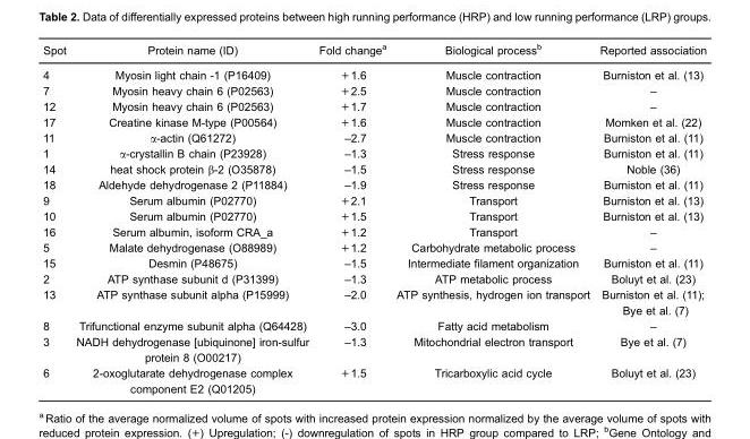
<table><thead><tr><td>Spot</td><td>Protein name (ID)</td><td>Fold change<sup>a</sup></td><td>Biological process<sup>b</sup></td><td>Reported association</td></tr></thead><tbody><tr><td>4</td><td>Myosin light chain -1 (P16409)</td><td>+1.6</td><td>Muscle contraction</td><td>Burniston et al. (13)</td></tr><tr><td>7</td><td>Myosin heavy chain 6 (P02563)</td><td>+2.5</td><td>Muscle contraction</td><td>–</td></tr><tr><td>12</td><td>Myosin heavy chain 6 (P02563)</td><td>+1.7</td><td>Muscle contraction</td><td>–</td></tr><tr><td>17</td><td>Creatine kinase M-type (P00564)</td><td>+1.6</td><td>Muscle contraction</td><td>Momken et al. (22)</td></tr><tr><td>11</td><td>α-actin (Q61272)</td><td>–2.7</td><td>Muscle contraction</td><td>Burniston et al. (11)</td></tr><tr><td>1</td><td>α-crystallin B chain (P23928)</td><td>–1.3</td><td>Stress response</td><td>Burniston et al. (11)</td></tr><tr><td>14</td><td>heat shock protein β-2 (O35878)</td><td>–1.5</td><td>Stress response</td><td>Noble (36)</td></tr><tr><td>18</td><td>Aldehyde dehydrogenase 2 (P11884)</td><td>–1.9</td><td>Stress response</td><td>Burniston et al. (11)</td></tr><tr><td>9</td><td>Serum albumin (P02770)</td><td>+2.1</td><td>Transport</td><td>Burniston et al. (13)</td></tr><tr><td>10</td><td>Serum albumin (P02770)</td><td>+1.5</td><td>Transport</td><td>Burniston et al. (13)</td></tr><tr><td>16</td><td>Serum albumin, isoform CRA_a</td><td>+1.2</td><td>Transport</td><td>–</td></tr><tr><td>5</td><td>Malate dehydrogenase (O88989)</td><td>+1.2</td><td>Carbohydrate metabolic process</td><td>–</td></tr><tr><td>15</td><td>Desmin (P48675)</td><td>–1.5</td><td>Intermediate filament organization</td><td>Burniston et al. (11)</td></tr><tr><td>2</td><td>ATP synthase subunit d (P31399)</td><td>–1.3</td><td>ATP metabolic process</td><td>Boluyt et al. (23)</td></tr><tr><td>13</td><td>ATP synthase subunit alpha (P15999)</td><td>–2.0</td><td>ATP synthesis, hydrogen ion transport</td><td>Burniston et al. (11); Bye et al. (7)</td></tr><tr><td>8</td><td>Trifunctional enzyme subunit alpha (Q64428)</td><td>–3.0</td><td>Fatty acid metabolism</td><td>–</td></tr><tr><td>3</td><td>NADH dehydrogenase [ubiquinone] iron-sulfur protein 8 (O00217)</td><td>–1.3</td><td>Mitochondrial electron transport</td><td>Bye et al. (7)</td></tr><tr><td>6</td><td>2-oxoglutarate dehydrogenase complex component E2 (Q01205)</td><td>+1.5</td><td>Tricarboxylic acid cycle</td><td>Boluyt et al. (23)</td></tr></tbody></table>